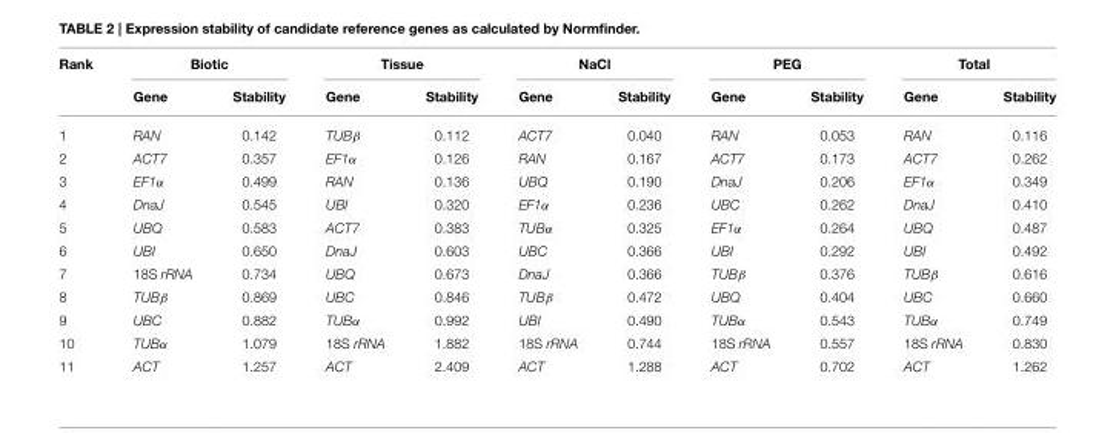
<table><thead><tr><td rowspan="2">Rank</td><td colspan="2">Biotic</td><td colspan="2">Tissue</td><td colspan="2">NaCl</td><td colspan="2">PEG</td><td colspan="2">Total</td></tr><tr><td>Gene</td><td>Stability</td><td>Gene</td><td>Stability</td><td>Gene</td><td>Stability</td><td>Gene</td><td>Stability</td><td>Gene</td><td>Stability</td></tr></thead><tbody><tr><td>1</td><td>RAN</td><td>0.142</td><td>TUBβ</td><td>0.112</td><td>ACT7</td><td>0.040</td><td>RAN</td><td>0.053</td><td>RAN</td><td>0.116</td></tr><tr><td>2</td><td>ACT7</td><td>0.357</td><td>EF1α</td><td>0.126</td><td>RAN</td><td>0.167</td><td>ACT7</td><td>0.173</td><td>ACT7</td><td>0.262</td></tr><tr><td>3</td><td>EF1α</td><td>0.499</td><td>RAN</td><td>0.136</td><td>UBQ</td><td>0.190</td><td>DnaJ</td><td>0.206</td><td>EF1α</td><td>0.349</td></tr><tr><td>4</td><td>DnaJ</td><td>0.545</td><td>UBI</td><td>0.320</td><td>EF1α</td><td>0.236</td><td>UBC</td><td>0.262</td><td>DnaJ</td><td>0.410</td></tr><tr><td>5</td><td>UBQ</td><td>0.583</td><td>ACT7</td><td>0.383</td><td>TUBα</td><td>0.325</td><td>EF1α</td><td>0.264</td><td>UBQ</td><td>0.487</td></tr><tr><td>6</td><td>UBI</td><td>0.650</td><td>DnaJ</td><td>0.603</td><td>UBC</td><td>0.366</td><td>UBI</td><td>0.292</td><td>UBI</td><td>0.492</td></tr><tr><td>7</td><td>18S rRNA</td><td>0.734</td><td>UBQ</td><td>0.673</td><td>DnaJ</td><td>0.366</td><td>TUBβ</td><td>0.376</td><td>TUBβ</td><td>0.616</td></tr><tr><td>8</td><td>TUBβ</td><td>0.869</td><td>UBC</td><td>0.846</td><td>TUBβ</td><td>0.472</td><td>UBQ</td><td>0.404</td><td>UBC</td><td>0.660</td></tr><tr><td>9</td><td>UBC</td><td>0.882</td><td>TUBα</td><td>0.992</td><td>UBI</td><td>0.490</td><td>TUBα</td><td>0.543</td><td>TUBα</td><td>0.749</td></tr><tr><td>10</td><td>TUBα</td><td>1.079</td><td>18S rRNA</td><td>1.882</td><td>18S rRNA</td><td>0.744</td><td>18S rRNA</td><td>0.557</td><td>18S rRNA</td><td>0.830</td></tr><tr><td>11</td><td>ACT</td><td>1.257</td><td>ACT</td><td>2.409</td><td>ACT</td><td>1.288</td><td>ACT</td><td>0.702</td><td>ACT</td><td>1.262</td></tr></tbody></table>